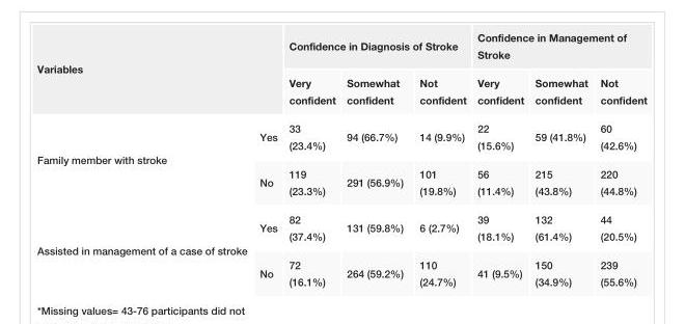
<table><tbody><tr><td rowspan="2" colspan="2">Variables</td><td colspan="3">Confidence in Diagnosis of Stroke</td><td colspan="3">Confidence in Management of Stroke</td></tr><tr><td>Very confident</td><td>Somewhat confident</td><td>Not confident</td><td>Very confident</td><td>Somewhat confident</td><td>Not confident</td></tr><tr><td rowspan="2">Family member with stroke</td><td>Yes</td><td>33 (23.4%)</td><td>94 (66.7%)</td><td>14 (9.9%)</td><td>22 (15.6%)</td><td>59 (41.8%)</td><td>60 (42.6%)</td></tr><tr><td>No</td><td>119 (23.3%)</td><td>291 (56.9%)</td><td>101 (19.8%)</td><td>56 (11.4%)</td><td>215 (43.8%)</td><td>220 (44.8%)</td></tr><tr><td rowspan="2">Assisted in management of a case of stroke</td><td>Yes</td><td>82 (37.4%)</td><td>131 (59.8%)</td><td>6 (2.7%)</td><td>39 (18.1%)</td><td>132 (61.4%)</td><td>44 (20.5%)</td></tr><tr><td>No</td><td>72 (16.1%)</td><td>264 (59.2%)</td><td>110 (24.7%)</td><td>41 (9.5%)</td><td>150 (34.9%)</td><td>239 (55.6%)</td></tr></tbody></table>